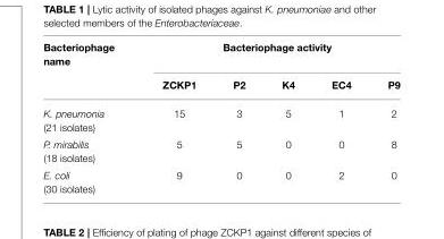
<table><thead><tr><td rowspan="2">Bacteriophage name</td><td colspan="5">Bacteriophage activity</td></tr><tr><td>ZCKP1</td><td>P2</td><td>K4</td><td>EC4</td><td>P9</td></tr></thead><tbody><tr><td>K. pneumonia (21 isolates)</td><td>15</td><td>3</td><td>5</td><td>1</td><td>2</td></tr><tr><td>P. mirabilis (18 isolates)</td><td>5</td><td>5</td><td>0</td><td>0</td><td>8</td></tr><tr><td>E. coli (30 isolates)</td><td>9</td><td>0</td><td>0</td><td>2</td><td>0</td></tr></tbody></table>